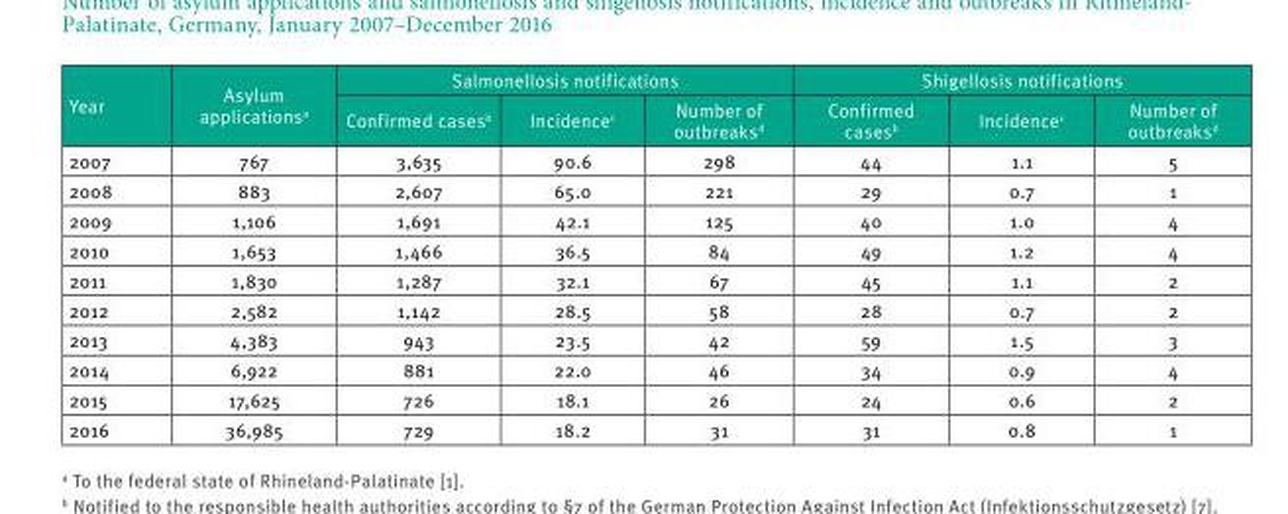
<table><thead><tr><td rowspan="2">Year</td><td rowspan="2">Asylum applications<sup>a</sup></td><td colspan="3">Salmonellosis notifications</td><td colspan="3">Shigellosis notifications</td></tr><tr><td>Confirmed cases<sup>b</sup></td><td>Incidence<sup>c</sup></td><td>Number of outbreaksd</td><td>Confirmed cases<sup>b</sup></td><td>Incidence<sup>c</sup></td><td>Number of outbreaksd</td></tr></thead><tbody><tr><td>2007</td><td>767</td><td>3,635</td><td>90.6</td><td>298</td><td>44</td><td>1.1</td><td>5</td></tr><tr><td>2008</td><td>883</td><td>2,607</td><td>65.0</td><td>221</td><td>29</td><td>0.7</td><td>1</td></tr><tr><td>2009</td><td>1,106</td><td>1,691</td><td>42.1</td><td>125</td><td>40</td><td>1.0</td><td>4</td></tr><tr><td>2010</td><td>1,653</td><td>1,466</td><td>36.5</td><td>84</td><td>49</td><td>1.2</td><td>4</td></tr><tr><td>2011</td><td>1,830</td><td>1,287</td><td>32.1</td><td>67</td><td>45</td><td>1.1</td><td>2</td></tr><tr><td>2012</td><td>2,582</td><td>1,142</td><td>28.5</td><td>58</td><td>28</td><td>0.7</td><td>2</td></tr><tr><td>2013</td><td>4,383</td><td>943</td><td>23.5</td><td>42</td><td>59</td><td>1.5</td><td>3</td></tr><tr><td>2014</td><td>6,922</td><td>881</td><td>22.0</td><td>46</td><td>34</td><td>0.9</td><td>4</td></tr><tr><td>2015</td><td>17,625</td><td>726</td><td>18.1</td><td>26</td><td>24</td><td>0.6</td><td>2</td></tr><tr><td>2016</td><td>36,985</td><td>729</td><td>18.2</td><td>31</td><td>31</td><td>0.8</td><td>1</td></tr></tbody></table>